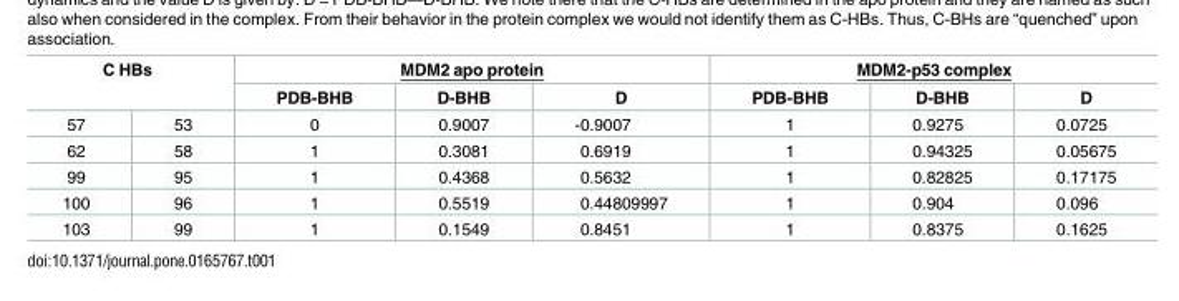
<table><thead><tr><td rowspan="2" colspan="2">C HBs</td><td colspan="3">MDM2 apo protein</td><td colspan="3">MDM2-p53 complex</td></tr><tr><td rowspan="2">PDB-BHB 0</td><td rowspan="2">D-BHB 0.9007</td><td rowspan="2">D -0.9007</td><td rowspan="2">PDB-BHB 1</td><td rowspan="2">D-BHB 0.9275</td><td rowspan="2">D 0.0725</td></tr><tr><td>57</td><td>53</td></tr></thead><tbody><tr><td>62</td><td>58</td><td>1</td><td>0.3081</td><td>0.6919</td><td>1</td><td>0.94325</td><td>0.05675</td></tr><tr><td>99</td><td>95</td><td>1</td><td>0.4368</td><td>0.5632</td><td>1</td><td>0.82825</td><td>0.17175</td></tr><tr><td>100</td><td>96</td><td>1</td><td>0.5519</td><td>0.44809997</td><td>1</td><td>0.904</td><td>0.096</td></tr><tr><td>103</td><td>99</td><td>1</td><td>0.1549</td><td>0.8451</td><td>1</td><td>0.8375</td><td>0.1625</td></tr></tbody></table>